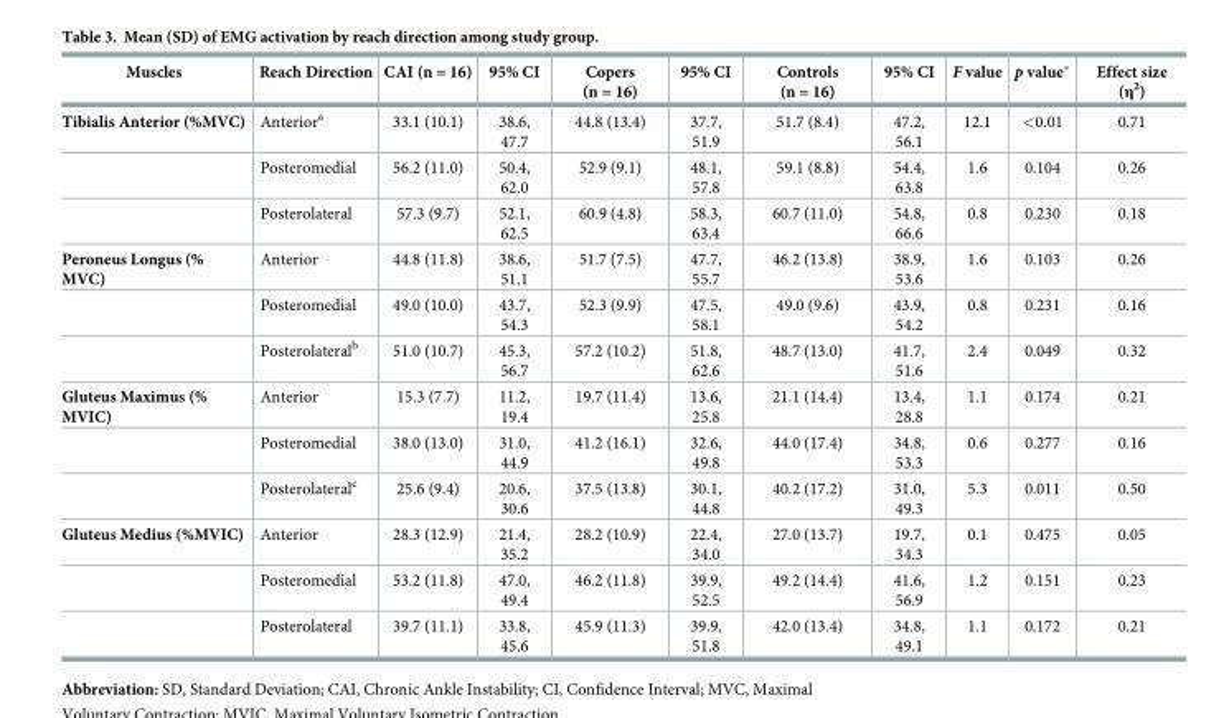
<table><thead><tr><td>Muscles</td><td>Reach Direction</td><td>CAI (n = 16)</td><td>95% CI</td><td>Copers (n = 16)</td><td>95% CI</td><td>Controls (n = 16)</td><td>95% CI</td><td>F value</td><td>p value*</td><td>Effect size (η<sup>2</sup>)</td></tr></thead><tbody><tr><td rowspan="3">Tibialis Anterior (%MVC)</td><td>Anterior<sup>a</sup></td><td>33.1 (10.1)</td><td>38.6, 47.7</td><td>44.8 (13.4)</td><td>37.7, 51.9</td><td>51.7 (8.4)</td><td>47.2, 56.1</td><td>12.1</td><td>&lt;0.01</td><td>0.71</td></tr><tr><td>Posteromedial</td><td>56.2 (11.0)</td><td>50.4, 62.0</td><td>52.9 (9.1)</td><td>48.1, 57.8</td><td>59.1 (8.8)</td><td>54.4, 63.8</td><td>1.6</td><td>0.104</td><td>0.26</td></tr><tr><td>Posterolateral</td><td>57.3 (9.7)</td><td>52.1, 62.5</td><td>60.9 (4.8)</td><td>58.3, 63.4</td><td>60.7 (11.0)</td><td>54.8, 66.6</td><td>0.8</td><td>0.230</td><td>0.18</td></tr><tr><td rowspan="3">Peroneus Longus (% MVC)</td><td>Anterior</td><td>44.8 (11.8)</td><td>38.6, 51.1</td><td>51.7 (7.5)</td><td>47.7, 55.7</td><td>46.2 (13.8)</td><td>38.9, 53.6</td><td>1.6</td><td>0.103</td><td>0.26</td></tr><tr><td>Posteromedial</td><td>49.0 (10.0)</td><td>43.7, 54.3</td><td>52.3 (9.9)</td><td>47.5, 58.1</td><td>49.0 (9.6)</td><td>43.9, 54.2</td><td>0.8</td><td>0.231</td><td>0.16</td></tr><tr><td>Posterolateral<sup>b</sup></td><td>51.0 (10.7)</td><td>45.3, 56.7</td><td>57.2 (10.2)</td><td>51.8, 62.6</td><td>48.7 (13.0)</td><td>41.7, 51.6</td><td>2.4</td><td>0.049</td><td>0.32</td></tr><tr><td rowspan="3">Gluteus Maximus (% MVIC)</td><td>Anterior</td><td>15.3 (7.7)</td><td>11.2, 19.4</td><td>19.7 (11.4)</td><td>13.6, 25.8</td><td>21.1 (14.4)</td><td>13.4, 28.8</td><td>1.1</td><td>0.174</td><td>0.21</td></tr><tr><td>Posteromedial</td><td>38.0 (13.0)</td><td>31.0, 44.9</td><td>41.2 (16.1)</td><td>32.6, 49.8</td><td>44.0 (17.4)</td><td>34.8, 53.3</td><td>0.6</td><td>0.277</td><td>0.16</td></tr><tr><td>Posterolateral<sup>c</sup></td><td>25.6 (9.4)</td><td>20.6, 30.6</td><td>37.5 (13.8)</td><td>30.1, 44.8</td><td>40.2 (17.2)</td><td>31.0, 49.3</td><td>5.3</td><td>0.011</td><td>0.50</td></tr><tr><td rowspan="3">Gluteus Medius (%MVIC)</td><td>Anterior</td><td>28.3 (12.9)</td><td>21.4, 35.2</td><td>28.2 (10.9)</td><td>22.4, 34.0</td><td>27.0 (13.7)</td><td>19.7, 34.3</td><td>0.1</td><td>0.475</td><td>0.05</td></tr><tr><td>Posteromedial</td><td>53.2 (11.8)</td><td>47.0, 49.4</td><td>46.2 (11.8)</td><td>39.9, 52.5</td><td>49.2 (14.4)</td><td>41.6, 56.9</td><td>1.2</td><td>0.151</td><td>0.23</td></tr><tr><td>Posterolateral</td><td>39.7 (11.1)</td><td>33.8, 45.6</td><td>45.9 (11.3)</td><td>39.9, 51.8</td><td>42.0 (13.4)</td><td>34.8, 49.1</td><td>1.1</td><td>0.172</td><td>0.21</td></tr></tbody></table>